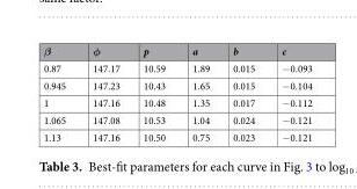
<table><thead><tr><td>β</td><td>φ</td><td>p</td><td>a</td><td>b</td><td>c</td></tr></thead><tbody><tr><td>0.87</td><td>147.17</td><td>10.59</td><td>1.89</td><td>0.015</td><td>−0.093</td></tr><tr><td>0.945</td><td>147.23</td><td>10.43</td><td>1.65</td><td>0.015</td><td>−0.104</td></tr><tr><td>1</td><td>147.16</td><td>10.48</td><td>1.35</td><td>0.017</td><td>−0.112</td></tr><tr><td>1.065</td><td>147.08</td><td>10.53</td><td>1.04</td><td>0.024</td><td>−0.121</td></tr><tr><td>1.13</td><td>147.16</td><td>10.50</td><td>0.75</td><td>0.023</td><td>−0.121</td></tr></tbody></table>